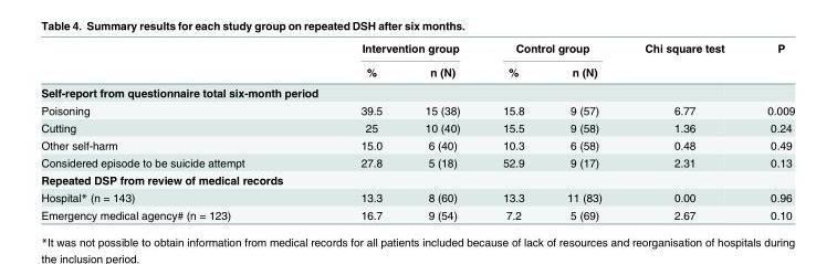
<table><thead><tr><td rowspan="2"></td><td colspan="2">Intervention group</td><td colspan="2">Control group</td><td rowspan="2">Chi square test</td><td rowspan="2">P</td></tr><tr><td>%</td><td>n (N)</td><td>%</td><td>n (N)</td></tr></thead><tbody><tr><td colspan="7">Self-report from questionnaire total six-month period</td></tr><tr><td>Poisoning</td><td>39.5</td><td>15 (38)</td><td>15.8</td><td>9 (57)</td><td>6.77</td><td>0.009</td></tr><tr><td>Cutting</td><td>25</td><td>10 (40)</td><td>15.5</td><td>9 (58)</td><td>1.36</td><td>0.24</td></tr><tr><td>Other self-harm</td><td>15.0</td><td>6 (40)</td><td>10.3</td><td>6 (58)</td><td>0.48</td><td>0.49</td></tr><tr><td>Considered episode to be suicide attempt</td><td>27.8</td><td>5 (18)</td><td>52.9</td><td>9 (17)</td><td>2.31</td><td>0.13</td></tr><tr><td colspan="7">Repeated DSP from review of medical records</td></tr><tr><td>Hospital* (n = 143)</td><td>13.3</td><td>8 (60)</td><td>13.3</td><td>11 (83)</td><td>0.00</td><td>0.96</td></tr><tr><td>Emergency medical agency# (n = 123)</td><td>16.7</td><td>9 (54)</td><td>7.2</td><td>5 (69)</td><td>2.67</td><td>0.10</td></tr></tbody></table>